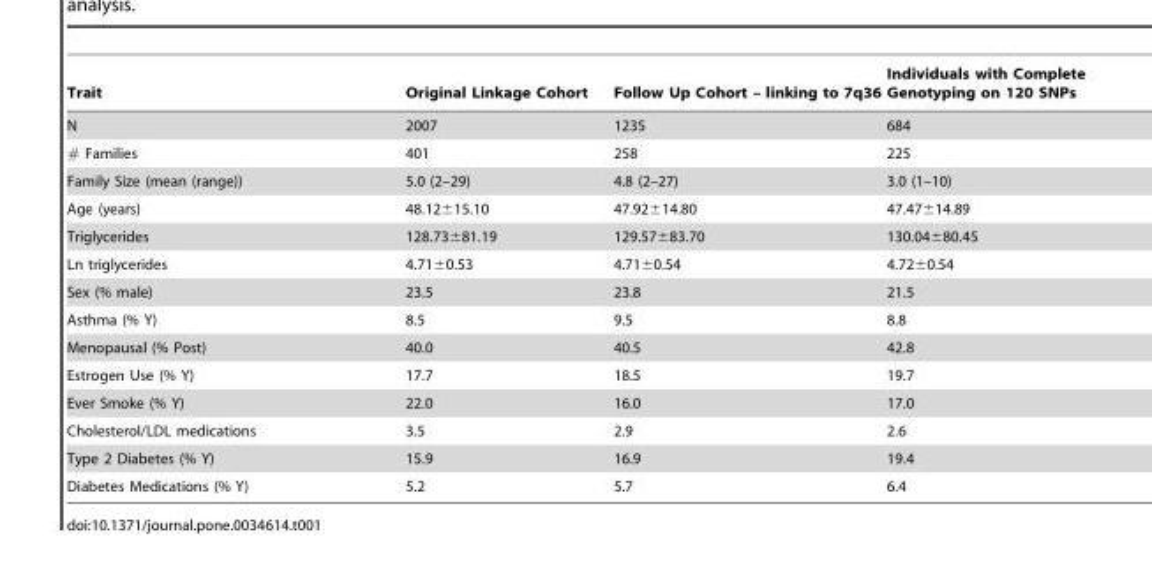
<table><thead><tr><td>Trait</td><td>Original Linkage Cohort</td><td>Follow Up Cohort – linking to 7q36</td><td>Individuals with Complete Genotyping on 120 SNPs</td></tr></thead><tbody><tr><td>N</td><td>2007</td><td>1235</td><td>684</td></tr><tr><td># Families</td><td>401</td><td>258</td><td>225</td></tr><tr><td>Family Size (mean (range))</td><td>5.0 (2–29)</td><td>4.8 (2–27)</td><td>3.0 (1–10)</td></tr><tr><td>Age (years)</td><td>48.12±15.10</td><td>47.92±14.80</td><td>47.47±14.89</td></tr><tr><td>Triglycerides</td><td>128.73±81.19</td><td>129.57±83.70</td><td>130.04±80.45</td></tr><tr><td>Ln triglycerides</td><td>4.71±0.53</td><td>4.71±0.54</td><td>4.72±0.54</td></tr><tr><td>Sex (% male)</td><td>23.5</td><td>23.8</td><td>21.5</td></tr><tr><td>Asthma (% Y)</td><td>8.5</td><td>9.5</td><td>8.8</td></tr><tr><td>Menopausal (% Post)</td><td>40.0</td><td>40.5</td><td>42.8</td></tr><tr><td>Estrogen Use (% Y)</td><td>17.7</td><td>18.5</td><td>19.7</td></tr><tr><td>Ever Smoke (% Y)</td><td>22.0</td><td>16.0</td><td>17.0</td></tr><tr><td>Cholesterol/LDL medications</td><td>3.5</td><td>2.9</td><td>2.6</td></tr><tr><td>Type 2 Diabetes (% Y)</td><td>15.9</td><td>16.9</td><td>19.4</td></tr><tr><td>Diabetes Medications (% Y)</td><td>5.2</td><td>5.7</td><td>6.4</td></tr></tbody></table>